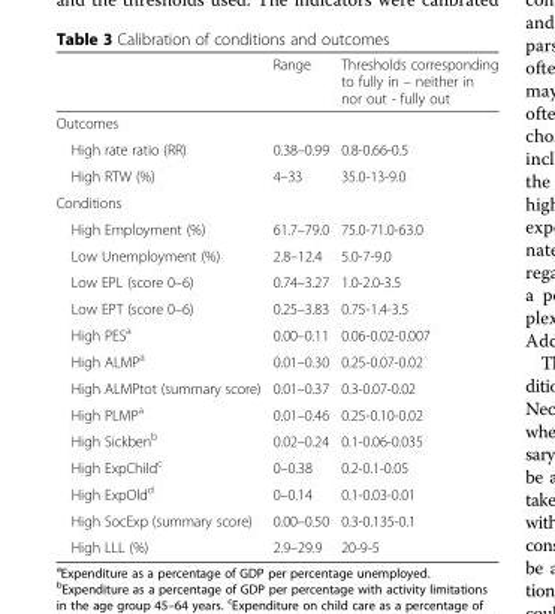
<table><thead><tr><td></td><td>Range</td><td>Thresholds corresponding to fully in – neither in nor out - fully out</td></tr></thead><tbody><tr><td colspan="3">Outcomes</td></tr><tr><td>High rate ratio (RR)</td><td>0.38–0.99</td><td>0.8-0.66-0.5</td></tr><tr><td>High RTW (%)</td><td>4–33</td><td>35.0-13-9.0</td></tr><tr><td colspan="3">Conditions</td></tr><tr><td>High Employment (%)</td><td>61.7–79.0</td><td>75.0-71.0-63.0</td></tr><tr><td>Low Unemployment (%)</td><td>2.8–12.4</td><td>5.0-7-9.0</td></tr><tr><td>Low EPL (score 0–6)</td><td>0.74–3.27</td><td>1.0-2.0-3.5</td></tr><tr><td>Low EPT (score 0–6)</td><td>0.25–3.83</td><td>0.75-1.4-3.5</td></tr><tr><td>High PES<sup>a</sup></td><td>0.00–0.11</td><td>0.06-0.02-0.007</td></tr><tr><td>High ALMP<sup>a</sup></td><td>0.01–0.30</td><td>0.25-0.07-0.02</td></tr><tr><td>High ALMPtot (summary score)</td><td>0.01–0.37</td><td>0.3-0.07-0.02</td></tr><tr><td>High PLMP<sup>a</sup></td><td>0.01–0.46</td><td>0.25-0.10-0.02</td></tr><tr><td>High Sickben<sup>b</sup></td><td>0.02–0.24</td><td>0.1-0.06-0.035</td></tr><tr><td>High ExpChild<sup>c</sup></td><td>0–0.38</td><td>0.2-0.1-0.05</td></tr><tr><td>High ExpOld<sup>d</sup></td><td>0–0.14</td><td>0.1-0.03-0.01</td></tr><tr><td>High SocExp (summary score)</td><td>0.00–0.50</td><td>0.3-0.135-0.1</td></tr><tr><td>High LLL (%)</td><td>2.9–29.9</td><td>20-9-5</td></tr></tbody></table>